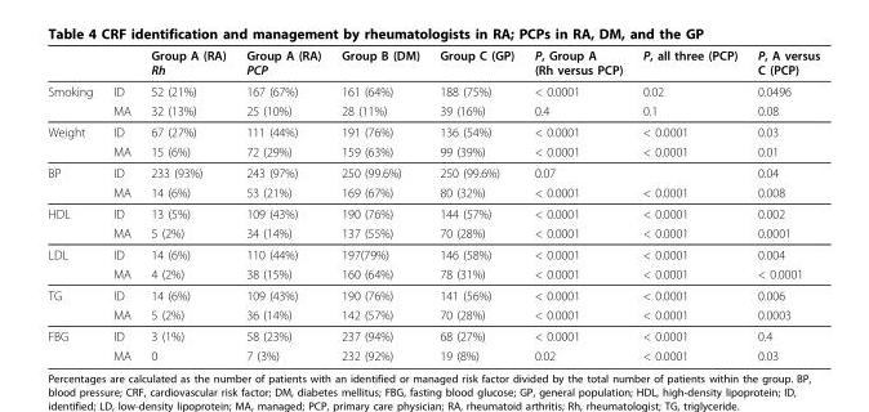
<table><thead><tr><td></td><td></td><td>Group A (RA) Rh</td><td>Group A (RA) PCP</td><td>Group B (DM)</td><td>Group C (GP)</td><td>P, Group A (Rh versus PCP)</td><td>P, all three (PCP)</td><td>P, A versus C (PCP)</td></tr></thead><tbody><tr><td rowspan="2">Smoking</td><td>ID</td><td>52 (21%)</td><td>167 (67%)</td><td>161 (64%)</td><td>188 (75%)</td><td>&lt; 0.0001</td><td>0.02</td><td>0.0496</td></tr><tr><td>MA</td><td>32 (13%)</td><td>25 (10%)</td><td>28 (11%)</td><td>39 (16%)</td><td>0.4</td><td>0.1</td><td>0.08</td></tr><tr><td rowspan="2">Weight</td><td>ID</td><td>67 (27%)</td><td>111 (44%)</td><td>191 (76%)</td><td>136 (54%)</td><td>&lt; 0.0001</td><td>&lt; 0.0001</td><td>0.03</td></tr><tr><td>MA</td><td>15 (6%)</td><td>72 (29%)</td><td>159 (63%)</td><td>99 (39%)</td><td>&lt; 0.0001</td><td>&lt; 0.0001</td><td>0.01</td></tr><tr><td rowspan="2">BP</td><td>ID</td><td>233 (93%)</td><td>243 (97%)</td><td>250 (99.6%)</td><td>250 (99.6%)</td><td>0.07</td><td></td><td>0.04</td></tr><tr><td>MA</td><td>14 (6%)</td><td>53 (21%)</td><td>169 (67%)</td><td>80 (32%)</td><td>&lt; 0.0001</td><td>&lt; 0.0001</td><td>0.008</td></tr><tr><td rowspan="2">HDL</td><td>ID</td><td>13 (5%)</td><td>109 (43%)</td><td>190 (76%)</td><td>144 (57%)</td><td>&lt; 0.0001</td><td>&lt; 0.0001</td><td>0.002</td></tr><tr><td>MA</td><td>5 (2%)</td><td>34 (14%)</td><td>137 (55%)</td><td>70 (28%)</td><td>&lt; 0.0001</td><td>&lt; 0.0001</td><td>0.0001</td></tr><tr><td rowspan="2">LDL</td><td>ID</td><td>14 (6%)</td><td>110 (44%)</td><td>197(79%)</td><td>146 (58%)</td><td>&lt; 0.0001</td><td>&lt; 0.0001</td><td>0.004</td></tr><tr><td>MA</td><td>4 (2%)</td><td>38 (15%)</td><td>160 (64%)</td><td>78 (31%)</td><td>&lt; 0.0001</td><td>&lt; 0.0001</td><td>&lt; 0.0001</td></tr><tr><td rowspan="2">TG</td><td>ID</td><td>14 (6%)</td><td>109 (43%)</td><td>190 (76%)</td><td>141 (56%)</td><td>&lt; 0.0001</td><td>&lt; 0.0001</td><td>0.006</td></tr><tr><td>MA</td><td>5 (2%)</td><td>36 (14%)</td><td>142 (57%)</td><td>70 (28%)</td><td>&lt; 0.0001</td><td>&lt; 0.0001</td><td>0.0003</td></tr><tr><td rowspan="2">FBG</td><td>ID</td><td>3 (1%)</td><td>58 (23%)</td><td>237 (94%)</td><td>68 (27%)</td><td>&lt; 0.0001</td><td>&lt; 0.0001</td><td>0.4</td></tr><tr><td>MA</td><td>0</td><td>7 (3%)</td><td>232 (92%)</td><td>19 (8%)</td><td>0.02</td><td>&lt; 0.0001</td><td>0.03</td></tr></tbody></table>